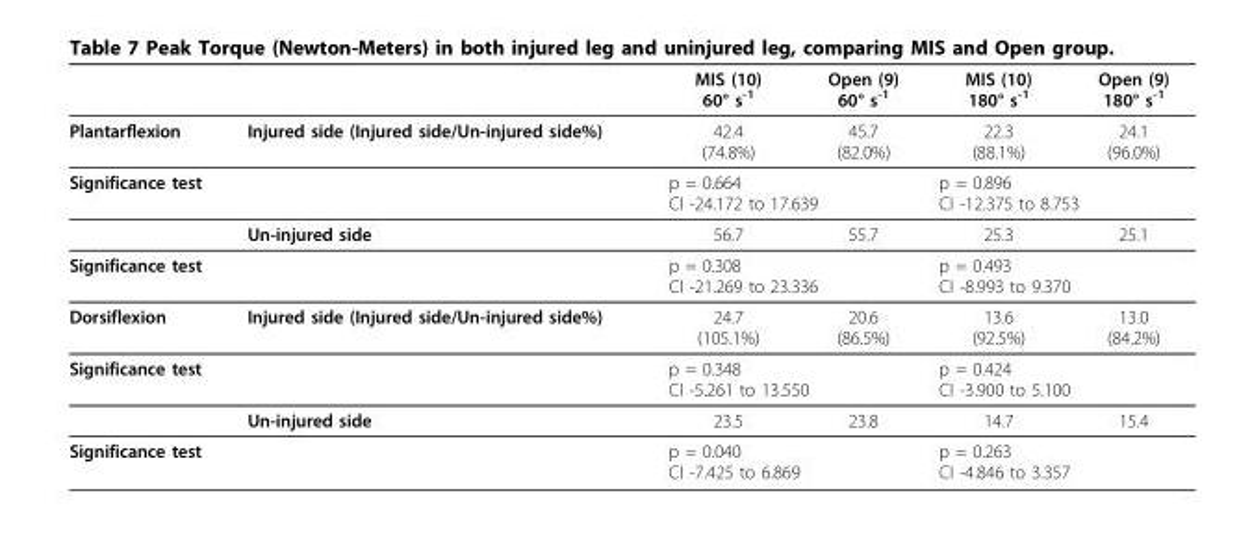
<table><thead><tr><td></td><td></td><td>MIS (10) 60° s<sup>-1</sup></td><td>Open (9) 60° s<sup>-1</sup></td><td>MIS (10) 180° s<sup>-1</sup></td><td>Open (9) 180° s<sup>-1</sup></td></tr></thead><tbody><tr><td>Plantarflexion</td><td>Injured side (Injured side/Un-injured side%)</td><td>42.4 (74.8%)</td><td>45.7 (82.0%)</td><td>22.3 (88.1%)</td><td>24.1 (96.0%)</td></tr><tr><td colspan="2">Significance test</td><td colspan="2">p = 0.664 CI -24.172 to 17.639</td><td colspan="2">p = 0.896 CI -12.375 to 8.753</td></tr><tr><td></td><td>Un-injured side</td><td>56.7</td><td>55.7</td><td>25.3</td><td>25.1</td></tr><tr><td colspan="2">Significance test</td><td colspan="2">p = 0.308 CI -21.269 to 23.336</td><td colspan="2">p = 0.493 CI -8.993 to 9.370</td></tr><tr><td>Dorsiflexion</td><td>Injured side (Injured side/Un-injured side%)</td><td>24.7 (105.1%)</td><td>20.6 (86.5%)</td><td>13.6 (92.5%)</td><td>13.0 (84.2%)</td></tr><tr><td colspan="2">Significance test</td><td colspan="2">p = 0.348 CI -5.261 to 13.550</td><td colspan="2">p = 0.424 CI -3.900 to 5.100</td></tr><tr><td></td><td>Un-injured side</td><td>23.5</td><td>23.8</td><td>14.7</td><td>15.4</td></tr><tr><td colspan="2">Significance test</td><td colspan="2">p = 0.040 CI -7.425 to 6.869</td><td colspan="2">p = 0.263 CI -4.846 to 3.357</td></tr></tbody></table>